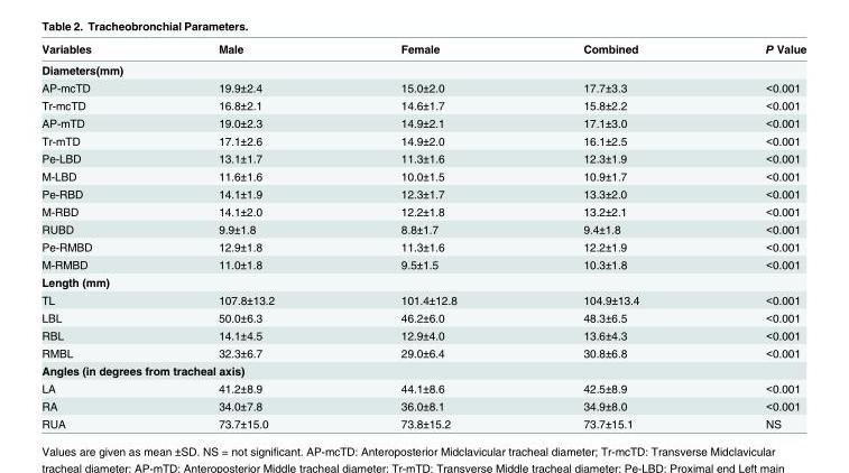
<table><thead><tr><td>Variables</td><td>Male</td><td>Female</td><td>Combined</td><td>P Value</td></tr></thead><tbody><tr><td colspan="5">Diameters(mm)</td></tr><tr><td>AP-mcTD</td><td>19.9±2.4</td><td>15.0±2.0</td><td>17.7±3.3</td><td>&lt;0.001</td></tr><tr><td>Tr-mcTD</td><td>16.8±2.1</td><td>14.6±1.7</td><td>15.8±2.2</td><td>&lt;0.001</td></tr><tr><td>AP-mTD</td><td>19.0±2.3</td><td>14.9±2.1</td><td>17.1±3.0</td><td>&lt;0.001</td></tr><tr><td>Tr-mTD</td><td>17.1±2.6</td><td>14.9±2.0</td><td>16.1±2.5</td><td>&lt;0.001</td></tr><tr><td>Pe-LBD</td><td>13.1±1.7</td><td>11.3±1.6</td><td>12.3±1.9</td><td>&lt;0.001</td></tr><tr><td>M-LBD</td><td>11.6±1.6</td><td>10.0±1.5</td><td>10.9±1.7</td><td>&lt;0.001</td></tr><tr><td>Pe-RBD</td><td>14.1±1.9</td><td>12.3±1.7</td><td>13.3±2.0</td><td>&lt;0.001</td></tr><tr><td>M-RBD</td><td>14.1±2.0</td><td>12.2±1.8</td><td>13.2±2.1</td><td>&lt;0.001</td></tr><tr><td>RUBD</td><td>9.9±1.8</td><td>8.8±1.7</td><td>9.4±1.8</td><td>&lt;0.001</td></tr><tr><td>Pe-RMBD</td><td>12.9±1.8</td><td>11.3±1.6</td><td>12.2±1.9</td><td>&lt;0.001</td></tr><tr><td>M-RMBD</td><td>11.0±1.8</td><td>9.5±1.5</td><td>10.3±1.8</td><td>&lt;0.001</td></tr><tr><td colspan="5">Length (mm)</td></tr><tr><td>TL</td><td>107.8±13.2</td><td>101.4±12.8</td><td>104.9±13.4</td><td>&lt;0.001</td></tr><tr><td>LBL</td><td>50.0±6.3</td><td>46.2±6.0</td><td>48.3±6.5</td><td>&lt;0.001</td></tr><tr><td>RBL</td><td>14.1±4.5</td><td>12.9±4.0</td><td>13.6±4.3</td><td>&lt;0.001</td></tr><tr><td>RMBL</td><td>32.3±6.7</td><td>29.0±6.4</td><td>30.8±6.8</td><td>&lt;0.001</td></tr><tr><td colspan="5">Angles (in degrees from tracheal axis)</td></tr><tr><td>LA</td><td>41.2±8.9</td><td>44.1±8.6</td><td>42.5±8.9</td><td>&lt;0.001</td></tr><tr><td>RA</td><td>34.0±7.8</td><td>36.0±8.1</td><td>34.9±8.0</td><td>&lt;0.001</td></tr><tr><td>RUA</td><td>73.7±15.0</td><td>73.8±15.2</td><td>73.7±15.1</td><td>NS</td></tr></tbody></table>